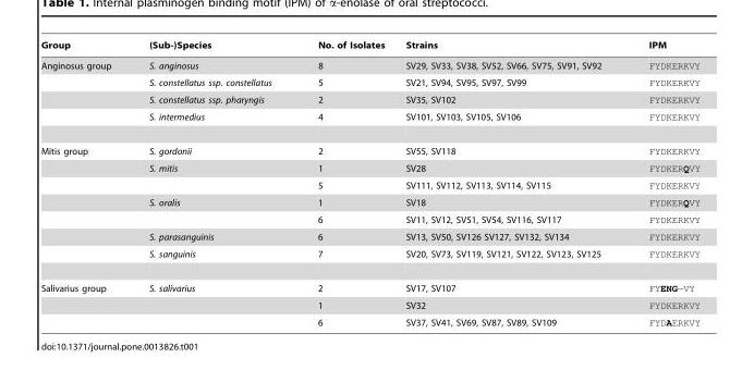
<table><thead><tr><td>Group</td><td>(Sub-)Species</td><td>No. of Isolates</td><td>Strains</td><td>IPM</td></tr></thead><tbody><tr><td rowspan="4">Anginosus group</td><td>S. anginosus</td><td>8</td><td>SV29, SV33, SV38, SV52, SV66, SV75, SV91, SV92</td><td>FYDKERKVY</td></tr><tr><td>S. constellatus ssp. constellatus</td><td>5</td><td>SV21, SV94, SV95, SV97, SV99</td><td>FYDKERKVY</td></tr><tr><td>S. constellatus ssp. pharyngis</td><td>2</td><td>SV35, SV102</td><td>FYDKERKVY</td></tr><tr><td>S. intermedius</td><td>4</td><td>SV101, SV103, SV105, SV106</td><td>FYDKERKVY</td></tr><tr><td rowspan="7">Mitis group</td><td>S. gordonii</td><td>2</td><td>SV55, SV118</td><td>FYDKERKVY</td></tr><tr><td>S. mitis</td><td>1</td><td>SV28</td><td>FYDKERQVY</td></tr><tr><td></td><td>5</td><td>SV111, SV112, SV113, SV114, SV115</td><td>FYDKERKVY</td></tr><tr><td>S. oralis</td><td>1</td><td>SV18</td><td>FYDKERQVY</td></tr><tr><td></td><td>6</td><td>SV11, SV12, SV51, SV54, SV116, SV117</td><td>FYDKERKVY</td></tr><tr><td>S. parasanguinis</td><td>6</td><td>SV13, SV50, SV126 SV127, SV132, SV134</td><td>FYDKERKVY</td></tr><tr><td>S. sanguinis</td><td>7</td><td>SV20, SV73, SV119, SV121, SV122, SV123, SV125</td><td>FYDKERKVY</td></tr><tr><td rowspan="3">Salivarius group</td><td>S. salivarius</td><td>2</td><td>SV17, SV107</td><td>FYENG—VY</td></tr><tr><td></td><td>1</td><td>SV32</td><td>FYDKERKVY</td></tr><tr><td></td><td>6</td><td>SV37, SV41, SV69, SV87, SV89, SV109</td><td>FYDAERKVY</td></tr></tbody></table>